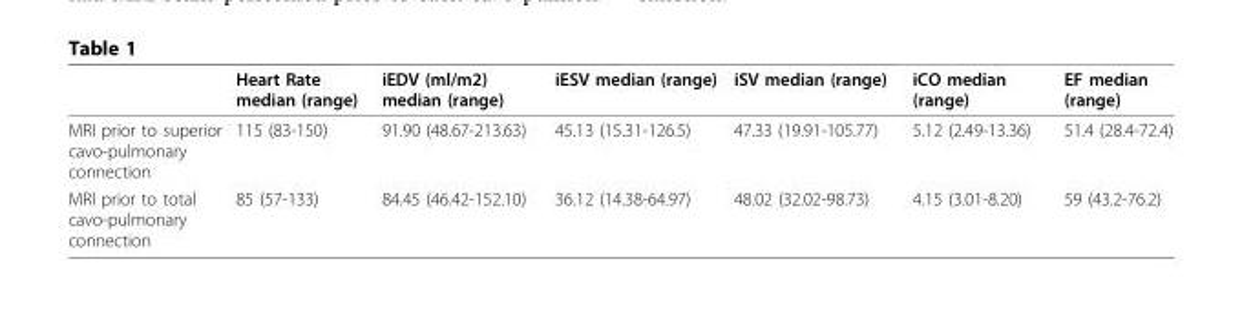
<table><thead><tr><td></td><td>Heart Rate median (range)</td><td>iEDV (ml/m2) median (range)</td><td>iESV median (range)</td><td>iSV median (range)</td><td>iCO median (range)</td><td>EF median (range)</td></tr></thead><tbody><tr><td>MRI prior to superior cavo-pulmonary connection</td><td>115 (83-150)</td><td>91.90 (48.67-213.63)</td><td>45.13 (15.31-126.5)</td><td>47.33 (19.91-105.77)</td><td>5.12 (2.49-13.36)</td><td>51.4 (28.4-72.4)</td></tr><tr><td>MRI prior to total cavo-pulmonary connection</td><td>85 (57-133)</td><td>84.45 (46.42-152.10)</td><td>36.12 (14.38-64.97)</td><td>48.02 (32.02-98.73)</td><td>4.15 (3.01-8.20)</td><td>59 (43.2-76.2)</td></tr></tbody></table>